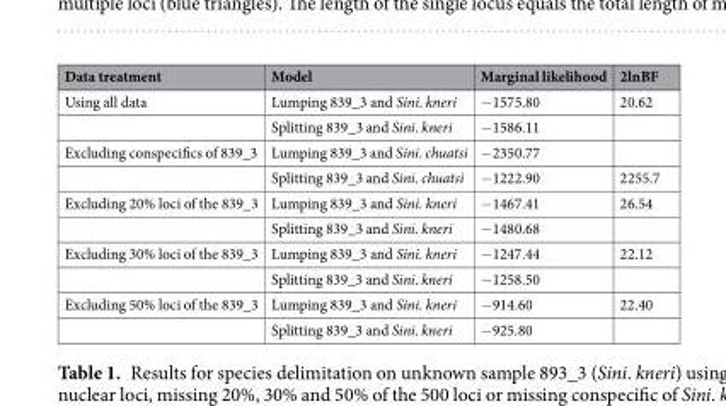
<table><thead><tr><td>Data treatment</td><td>Model</td><td>Marginal likelihood</td><td>2lnBF</td></tr></thead><tbody><tr><td rowspan="2">Using all data</td><td>Lumping 839_3 and Sini. kneri</td><td>−1575.80</td><td>20.62</td></tr><tr><td>Splitting 839_3 and Sini. kneri</td><td>−1586.11</td><td></td></tr><tr><td rowspan="2">Excluding conspecifics of 839_3</td><td>Lumping 839_3 and Sini. chuatsi</td><td>−2350.77</td><td></td></tr><tr><td>Splitting 839_3 and Sini. chuatsi</td><td>−1222.90</td><td>2255.7</td></tr><tr><td rowspan="2">Excluding 20% loci of the 839_3</td><td>Lumping 839_3 and Sini. kneri</td><td>−1467.41</td><td>26.54</td></tr><tr><td>Splitting 839_3 and Sini. kneri</td><td>−1480.68</td><td></td></tr><tr><td rowspan="2">Excluding 30% loci of the 839_3</td><td>Lumping 839_3 and Sini. kneri</td><td>−1247.44</td><td>22.12</td></tr><tr><td>Splitting 839_3 and Sini. kneri</td><td>−1258.50</td><td></td></tr><tr><td rowspan="2">Excluding 50% loci of the 839_3</td><td>Lumping 839_3 and Sini. kneri</td><td>−914.60</td><td>22.40</td></tr><tr><td>Splitting 839_3 and Sini. kneri</td><td>−925.80</td><td></td></tr></tbody></table>